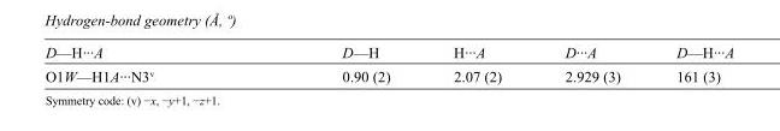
<table><tbody><tr><td>D—H···A</td><td>D—H</td><td>H···A</td><td>D···A</td><td>D—H···A</td></tr><tr><td>O1W—H1A···N3<sup>v</sup></td><td>0.90 (2)</td><td>2.07 (2)</td><td>2.929 (3)</td><td>161 (3)</td></tr></tbody></table>